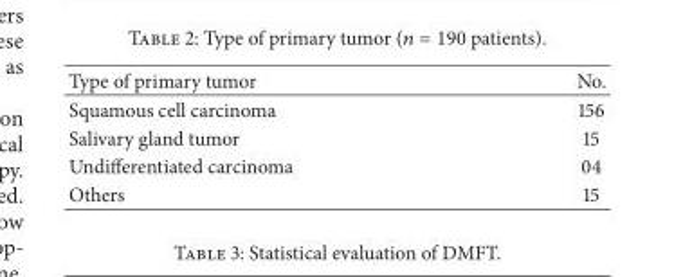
<table><thead><tr><td>Type of primary tumor</td><td>No.</td></tr></thead><tbody><tr><td>Squamous cell carcinoma</td><td>156</td></tr><tr><td>Salivary gland tumor</td><td>15</td></tr><tr><td>Undifferentiated carcinoma</td><td>04</td></tr><tr><td>Others</td><td>15</td></tr></tbody></table>